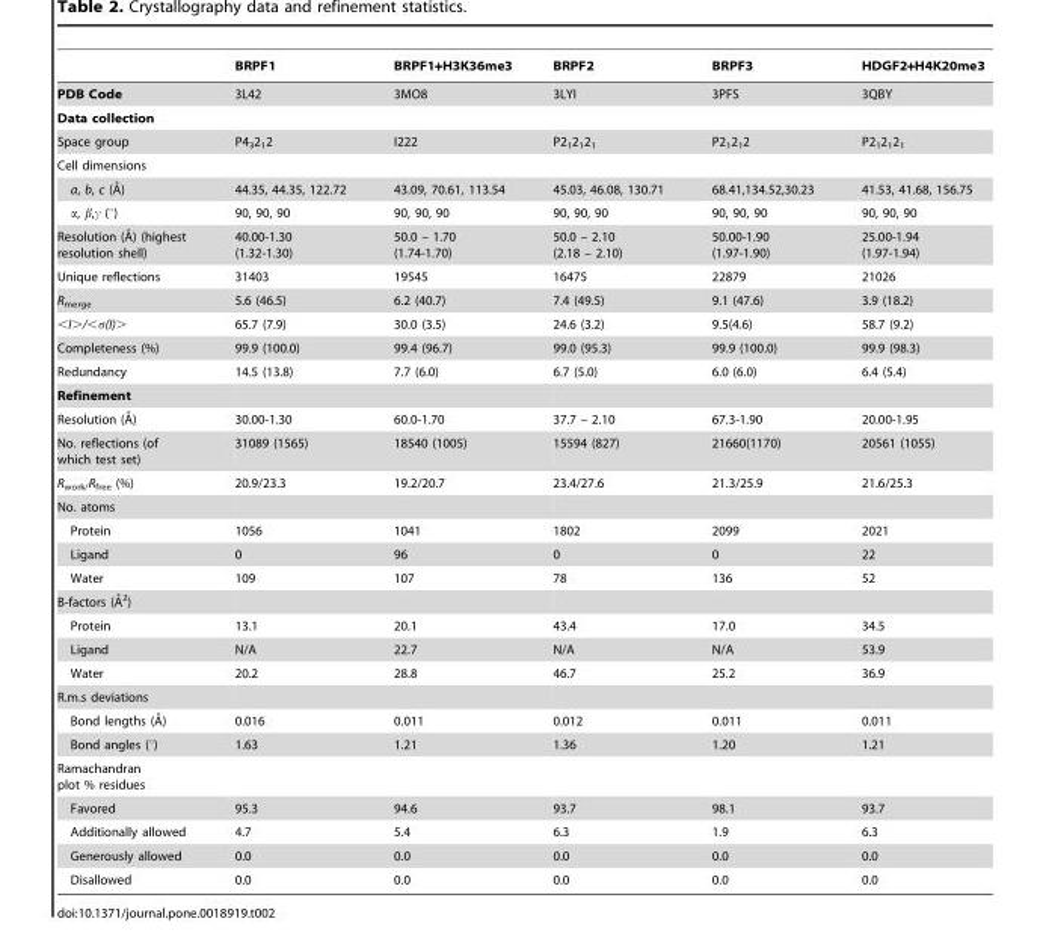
<table><thead><tr><td></td><td>BRPF1</td><td>BRPF1+H3K36me3</td><td>BRPF2</td><td>BRPF3</td><td>HDGF2+H4K20me3</td></tr></thead><tbody><tr><td>PDB Code</td><td>3L42</td><td>3MO8</td><td>3LYI</td><td>3PFS</td><td>3QBY</td></tr><tr><td colspan="6">Data collection</td></tr><tr><td>Space group</td><td>P4<sub>3</sub>2<sub>1</sub>2</td><td>I222</td><td>P2<sub>1</sub>2<sub>1</sub>2<sub>1</sub></td><td>P2<sub>1</sub>2<sub>1</sub>2</td><td>P2<sub>1</sub>2<sub>1</sub>2<sub>1</sub></td></tr><tr><td colspan="6">Cell dimensions</td></tr><tr><td>a, b, c (A˚)</td><td>44.35, 44.35, 122.72</td><td>43.09, 70.61, 113.54</td><td>45.03, 46.08, 130.71</td><td>68.41,134.52,30.23</td><td>41.53, 41.68, 156.75</td></tr><tr><td>α, β,γ (°)</td><td>90, 90, 90</td><td>90, 90, 90</td><td>90, 90, 90</td><td>90, 90, 90</td><td>90, 90, 90</td></tr><tr><td>Resolution (A˚) (highest resolution shell)</td><td>40.00-1.30 (1.32-1.30)</td><td>50.0 – 1.70 (1.74-1.70)</td><td>50.0 – 2.10 (2.18 – 2.10)</td><td>50.00-1.90 (1.97-1.90)</td><td>25.00-1.94 (1.97-1.94)</td></tr><tr><td>Unique reflections</td><td>31403</td><td>19545</td><td>16475</td><td>22879</td><td>21026</td></tr><tr><td>R<sub>merge</sub></td><td>5.6 (46.5)</td><td>6.2 (40.7)</td><td>7.4 (49.5)</td><td>9.1 (47.6)</td><td>3.9 (18.2)</td></tr><tr><td>&lt;I&gt;/&lt;σ(I)&gt;</td><td>65.7 (7.9)</td><td>30.0 (3.5)</td><td>24.6 (3.2)</td><td>9.5(4.6)</td><td>58.7 (9.2)</td></tr><tr><td>Completeness (%)</td><td>99.9 (100.0)</td><td>99.4 (96.7)</td><td>99.0 (95.3)</td><td>99.9 (100.0)</td><td>99.9 (98.3)</td></tr><tr><td>Redundancy</td><td>14.5 (13.8)</td><td>7.7 (6.0)</td><td>6.7 (5.0)</td><td>6.0 (6.0)</td><td>6.4 (5.4)</td></tr><tr><td colspan="6">Refinement</td></tr><tr><td>Resolution (A˚)</td><td>30.00-1.30</td><td>60.0-1.70</td><td>37.7 – 2.10</td><td>67.3-1.90</td><td>20.00-1.95</td></tr><tr><td>No. reflections (of which test set)</td><td>31089 (1565)</td><td>18540 (1005)</td><td>15594 (827)</td><td>21660(1170)</td><td>20561 (1055)</td></tr><tr><td>R<sub>work/</sub>R<sub>free</sub> (%)</td><td>20.9/23.3</td><td>19.2/20.7</td><td>23.4/27.6</td><td>21.3/25.9</td><td>21.6/25.3</td></tr><tr><td colspan="6">No. atoms</td></tr><tr><td>Protein</td><td>1056</td><td>1041</td><td>1802</td><td>2099</td><td>2021</td></tr><tr><td>Ligand</td><td>0</td><td>96</td><td>0</td><td>0</td><td>22</td></tr><tr><td>Water</td><td>109</td><td>107</td><td>78</td><td>136</td><td>52</td></tr><tr><td colspan="6">B-factors (A˚ 2)</td></tr><tr><td>Protein</td><td>13.1</td><td>20.1</td><td>43.4</td><td>17.0</td><td>34.5</td></tr><tr><td>Ligand</td><td>N/A</td><td>22.7</td><td>N/A</td><td>N/A</td><td>53.9</td></tr><tr><td>Water</td><td>20.2</td><td>28.8</td><td>46.7</td><td>25.2</td><td>36.9</td></tr><tr><td colspan="6">R.m.s deviations</td></tr><tr><td>Bond lengths (A˚)</td><td>0.016</td><td>0.011</td><td>0.012</td><td>0.011</td><td>0.011</td></tr><tr><td>Bond angles (°)</td><td>1.63</td><td>1.21</td><td>1.36</td><td>1.20</td><td>1.21</td></tr><tr><td colspan="6">Ramachandran plot % residues</td></tr><tr><td>Favored</td><td>95.3</td><td>94.6</td><td>93.7</td><td>98.1</td><td>93.7</td></tr><tr><td>Additionally allowed</td><td>4.7</td><td>5.4</td><td>6.3</td><td>1.9</td><td>6.3</td></tr><tr><td>Generously allowed</td><td>0.0</td><td>0.0</td><td>0.0</td><td>0.0</td><td>0.0</td></tr><tr><td>Disallowed</td><td>0.0</td><td>0.0</td><td>0.0</td><td>0.0</td><td>0.0</td></tr></tbody></table>